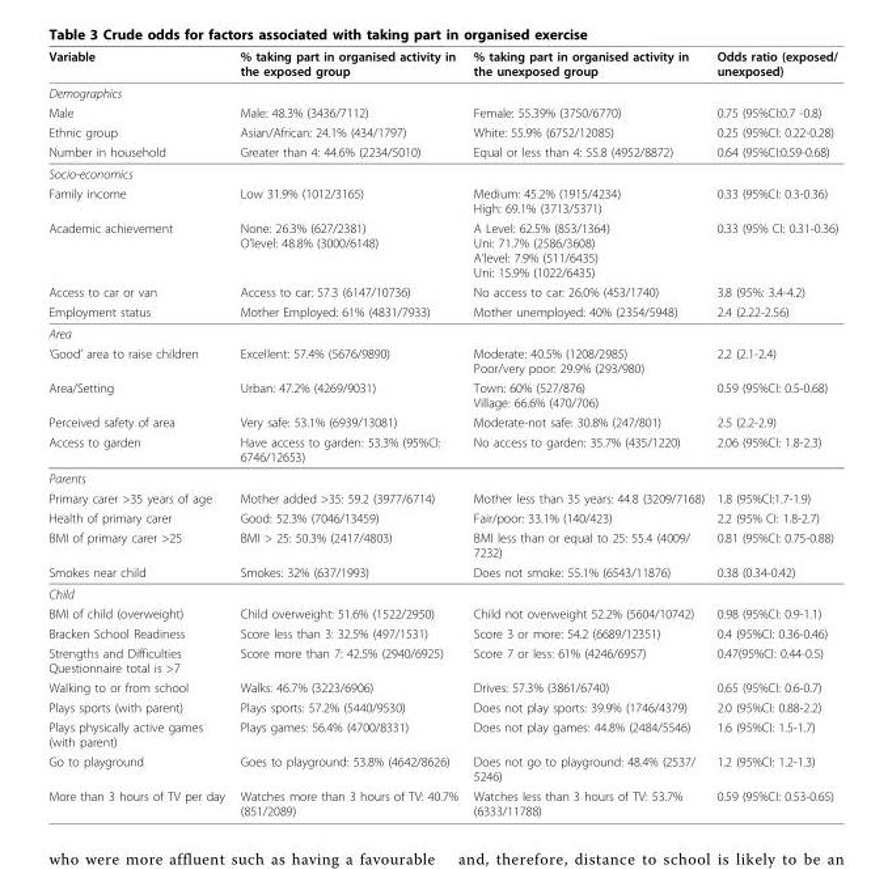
<table><thead><tr><td>Variable</td><td>% taking part in organised activity in the exposed group</td><td>% taking part in organised activity in the unexposed group</td><td>Odds ratio (exposed/ unexposed)</td></tr></thead><tbody><tr><td colspan="4">Demographics</td></tr><tr><td>Male</td><td>Male: 48.3% (3436/7112)</td><td>Female: 55.39% (3750/6770)</td><td>0.75 (95%CI:0.7 -0.8)</td></tr><tr><td>Ethnic group</td><td>Asian/African: 24.1% (434/1797)</td><td>White: 55.9% (6752/12085)</td><td>0.25 (95%CI: 0.22-0.28)</td></tr><tr><td>Number in household</td><td>Greater than 4: 44.6% (2234/5010)</td><td>Equal or less than 4: 55.8 (4952/8872)</td><td>0.64 (95%CI:0.59-0.68)</td></tr><tr><td colspan="4">Socio-economics</td></tr><tr><td>Family income</td><td>Low 31.9% (1012/3165)</td><td>Medium: 45.2% (1915/4234) High: 69.1% (3713/5371)</td><td>0.33 (95%CI: 0.3-0.36)</td></tr><tr><td>Academic achievement</td><td>None: 26.3% (627/2381) O’level: 48.8% (3000/6148)</td><td>A Level: 62.5% (853/1364) Uni: 71.7% (2586/3608) A’level: 7.9% (511/6435) Uni: 15.9% (1022/6435)</td><td>0.33 (95% CI: 0.31-0.36)</td></tr><tr><td>Access to car or van</td><td>Access to car: 57.3 (6147/10736)</td><td>No access to car: 26.0% (453/1740)</td><td>3.8 (95%: 3.4-4.2)</td></tr><tr><td>Employment status</td><td>Mother Employed: 61% (4831/7933)</td><td>Mother unemployed: 40% (2354/5948)</td><td>2.4 (2.22-2.56)</td></tr><tr><td colspan="4">Area</td></tr><tr><td>’Good’ area to raise children</td><td>Excellent: 57.4% (5676/9890)</td><td>Moderate: 40.5% (1208/2985) Poor/very poor: 29.9% (293/980)</td><td>2.2 (2.1-2.4)</td></tr><tr><td>Area/Setting</td><td>Urban: 47.2% (4269/9031)</td><td>Town: 60% (527/876) Village: 66.6% (470/706)</td><td>0.59 (95%CI: 0.5-0.68)</td></tr><tr><td>Perceived safety of area</td><td>Very safe: 53.1% (6939/13081)</td><td>Moderate-not safe: 30.8% (247/801)</td><td>2.5 (2.2-2.9)</td></tr><tr><td>Access to garden</td><td>Have access to garden: 53.3% (95%CI: 6746/12653)</td><td>No access to garden: 35.7% (435/1220)</td><td>2.06 (95%CI: 1.8-2.3)</td></tr><tr><td colspan="4">Parents</td></tr><tr><td>Primary carer &gt;35 years of age</td><td>Mother added &gt;35: 59.2 (3977/6714)</td><td>Mother less than 35 years: 44.8 (3209/7168)</td><td>1.8 (95%CI:1.7-1.9)</td></tr><tr><td>Health of primary carer</td><td>Good: 52.3% (7046/13459)</td><td>Fair/poor: 33.1% (140/423)</td><td>2.2 (95% CI: 1.8-2.7)</td></tr><tr><td>BMI of primary carer &gt;25</td><td>BMI &gt; 25: 50.3% (2417/4803)</td><td>BMI less than or equal to 25: 55.4 (4009/ 7232)</td><td>0.81 (95%CI: 0.75-0.88)</td></tr><tr><td>Smokes near child</td><td>Smokes: 32% (637/1993)</td><td>Does not smoke: 55.1% (6543/11876)</td><td>0.38 (0.34-0.42)</td></tr><tr><td colspan="4">Child</td></tr><tr><td>BMI of child (overweight)</td><td>Child overweight: 51.6% (1522/2950)</td><td>Child not overweight 52.2% (5604/10742)</td><td>0.98 (95%CI: 0.9-1.1)</td></tr><tr><td>Bracken School Readiness</td><td>Score less than 3: 32.5% (497/1531)</td><td>Score 3 or more: 54.2 (6689/12351)</td><td>0.4 (95%CI: 0.36-0.46)</td></tr><tr><td>Strengths and Difficulties Questionnaire total is &gt;7</td><td>Score more than 7: 42.5% (2940/6925)</td><td>Score 7 or less: 61% (4246/6957)</td><td>0.47(95%CI: 0.44-0.5)</td></tr><tr><td>Walking to or from school</td><td>Walks: 46.7% (3223/6906)</td><td>Drives: 57.3% (3861/6740)</td><td>0.65 (95%CI: 0.6-0.7)</td></tr><tr><td>Plays sports (with parent)</td><td>Plays sports: 57.2% (5440/9530)</td><td>Does not play sports: 39.9% (1746/4379)</td><td>2.0 (95%CI: 0.88-2.2)</td></tr><tr><td>Plays physically active games (with parent)</td><td>Plays games: 56.4% (4700/8331)</td><td>Does not play games: 44.8% (2484/5546)</td><td>1.6 (95%CI: 1.5-1.7)</td></tr><tr><td>Go to playground</td><td>Goes to playground: 53.8% (4642/8626)</td><td>Does not go to playground: 48.4% (2537/ 5246)</td><td>1.2 (95%CI: 1.2-1.3)</td></tr><tr><td>More than 3 hours of TV per day</td><td>Watches more than 3 hours of TV: 40.7% (851/2089)</td><td>Watches less than 3 hours of TV: 53.7% (6333/11788)</td><td>0.59 (95%CI: 0.53-0.65)</td></tr></tbody></table>